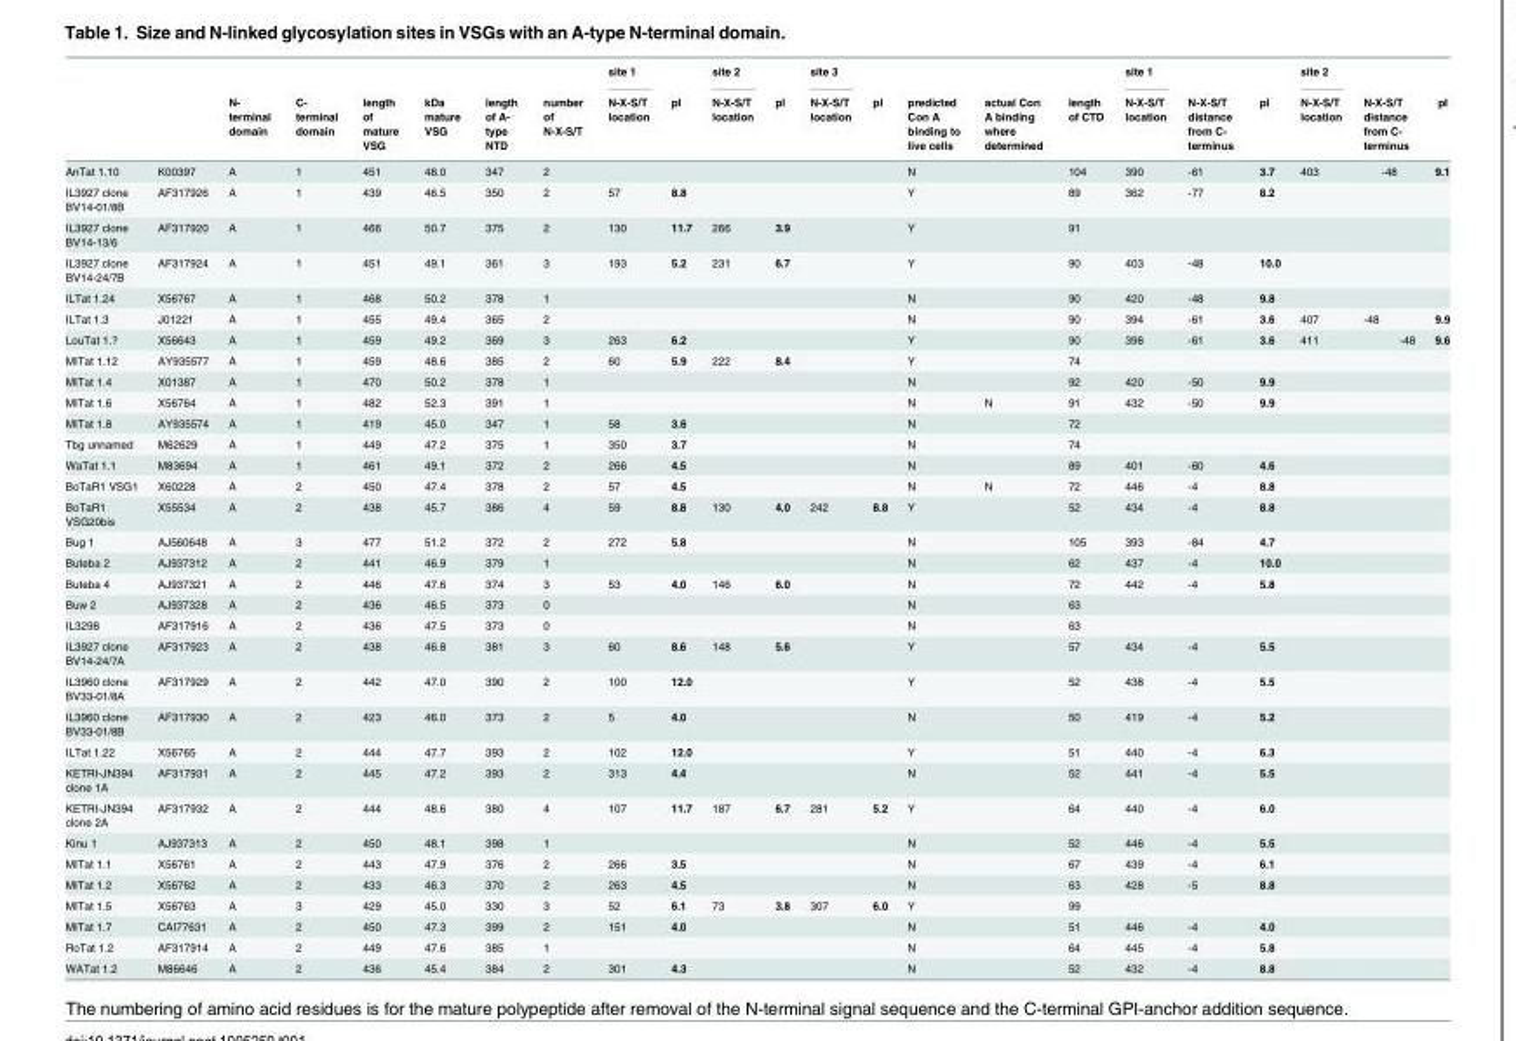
<table><thead><tr><td rowspan="2"></td><td rowspan="2"></td><td rowspan="2">N- terminal domain</td><td rowspan="2">C- terminal domain</td><td rowspan="2">length of mature VSG</td><td rowspan="2">kDa mature VSG</td><td rowspan="2">length of A- type NTD</td><td rowspan="2">number of N-X-S/T</td><td rowspan="2">site 1 N-X-S/T location</td><td rowspan="2">pI</td><td rowspan="2">site 2 N-X-S/T location</td><td rowspan="2">pI</td><td rowspan="2">site 3 N-X-S/T location</td><td rowspan="2">pI</td><td rowspan="2">predicted Con A binding to live cells</td><td rowspan="2">actual Con A binding where determined</td><td rowspan="2">length of CTD</td><td rowspan="2">site 1 N-X-S/T location</td><td rowspan="2">N-X-S/T distance from C- terminus</td><td rowspan="2">pI</td><td rowspan="2">site 2 N-X-S/T location</td><td rowspan="2">N-X-S/T distance from C- terminus</td><td rowspan="2">pI</td></tr><tr></tr></thead><tbody><tr><td>AnTat 1.10</td><td>K00397</td><td>A</td><td>1</td><td>451</td><td>48.0</td><td>347</td><td>2</td><td></td><td></td><td></td><td></td><td></td><td></td><td>N</td><td></td><td>104</td><td>390</td><td>-61</td><td>3.7</td><td>403</td><td>-48</td><td>9.1</td></tr><tr><td>IL3927 clone BV14-01/8B</td><td>AF317926</td><td>A</td><td>1</td><td>439</td><td>46.5</td><td>350</td><td>2</td><td>57</td><td>8.8</td><td></td><td></td><td></td><td></td><td>Y</td><td></td><td>89</td><td>362</td><td>-77</td><td>8.2</td><td></td><td></td><td></td></tr><tr><td>IL3927 clone BV14-13/6</td><td>AF317920</td><td>A</td><td>1</td><td>466</td><td>50.7</td><td>375</td><td>2</td><td>130</td><td>11.7</td><td>266</td><td>3.9</td><td></td><td></td><td>Y</td><td></td><td>91</td><td></td><td></td><td></td><td></td><td></td><td></td></tr><tr><td>IL3927 clone BV14-24/7B</td><td>AF317924</td><td>A</td><td>1</td><td>451</td><td>49.1</td><td>361</td><td>3</td><td>193</td><td>5.2</td><td>231</td><td>6.7</td><td></td><td></td><td>Y</td><td></td><td>90</td><td>403</td><td>-48</td><td>10.0</td><td></td><td></td><td></td></tr><tr><td>ILTat 1.24</td><td>X56767</td><td>A</td><td>1</td><td>468</td><td>50.2</td><td>378</td><td>1</td><td></td><td></td><td></td><td></td><td></td><td></td><td>N</td><td></td><td>90</td><td>420</td><td>-48</td><td>9.8</td><td></td><td></td><td></td></tr><tr><td>ILTat 1.3</td><td>J01221</td><td>A</td><td>1</td><td>455</td><td>49.4</td><td>365</td><td>2</td><td></td><td></td><td></td><td></td><td></td><td></td><td>N</td><td></td><td>90</td><td>394</td><td>-61</td><td>3.6</td><td>407</td><td>-48</td><td>9.9</td></tr><tr><td>LouTat 1.?</td><td>X56643</td><td>A</td><td>1</td><td>459</td><td>49.2</td><td>369</td><td>3</td><td>263</td><td>6.2</td><td></td><td></td><td></td><td></td><td>Y</td><td></td><td>90</td><td>398</td><td>-61</td><td>3.6</td><td>411</td><td>-48</td><td>9.6</td></tr><tr><td>MITat 1.12</td><td>AY935577</td><td>A</td><td>1</td><td>459</td><td>48.6</td><td>385</td><td>2</td><td>60</td><td>5.9</td><td>222</td><td>8.4</td><td></td><td></td><td>Y</td><td></td><td>74</td><td></td><td></td><td></td><td></td><td></td><td></td></tr><tr><td>MITat 1.4</td><td>X01387</td><td>A</td><td>1</td><td>470</td><td>50.2</td><td>378</td><td>1</td><td></td><td></td><td></td><td></td><td></td><td></td><td>N</td><td></td><td>92</td><td>420</td><td>-50</td><td>9.9</td><td></td><td></td><td></td></tr><tr><td>MITat 1.6</td><td>X56764</td><td>A</td><td>1</td><td>482</td><td>52.3</td><td>391</td><td>1</td><td></td><td></td><td></td><td></td><td></td><td></td><td>N</td><td>N</td><td>91</td><td>432</td><td>-50</td><td>9.9</td><td></td><td></td><td></td></tr><tr><td>MITat 1.8</td><td>AY935574</td><td>A</td><td>1</td><td>419</td><td>45.0</td><td>347</td><td>1</td><td>58</td><td>3.6</td><td></td><td></td><td></td><td></td><td>N</td><td></td><td>72</td><td></td><td></td><td></td><td></td><td></td><td></td></tr><tr><td>Tbg unnamed</td><td>M62629</td><td>A</td><td>1</td><td>449</td><td>47.2</td><td>375</td><td>1</td><td>350</td><td>3.7</td><td></td><td></td><td></td><td></td><td>N</td><td></td><td>74</td><td></td><td></td><td></td><td></td><td></td><td></td></tr><tr><td>WaTat 1.1</td><td>M83694</td><td>A</td><td>1</td><td>461</td><td>49.1</td><td>372</td><td>2</td><td>266</td><td>4.5</td><td></td><td></td><td></td><td></td><td>N</td><td></td><td>89</td><td>401</td><td>-60</td><td>4.6</td><td></td><td></td><td></td></tr><tr><td>BoTaR1 VSG1</td><td>X60228</td><td>A</td><td>2</td><td>450</td><td>47.4</td><td>378</td><td>2</td><td>57</td><td>4.5</td><td></td><td></td><td></td><td></td><td>N</td><td>N</td><td>72</td><td>446</td><td>-4</td><td>8.8</td><td></td><td></td><td></td></tr><tr><td>BoTaR1 VSG20bis</td><td>X55534</td><td>A</td><td>2</td><td>438</td><td>45.7</td><td>386</td><td>4</td><td>59</td><td>8.8</td><td>130</td><td>4.0</td><td>242</td><td>8.8</td><td>Y</td><td></td><td>52</td><td>434</td><td>-4</td><td>8.8</td><td></td><td></td><td></td></tr><tr><td>Bug 1</td><td>AJ560648</td><td>A</td><td>3</td><td>477</td><td>51.2</td><td>372</td><td>2</td><td>272</td><td>5.8</td><td></td><td></td><td></td><td></td><td>N</td><td></td><td>105</td><td>393</td><td>-84</td><td>4.7</td><td></td><td></td><td></td></tr><tr><td>Buteba 2</td><td>AJ937312</td><td>A</td><td>2</td><td>441</td><td>46.9</td><td>379</td><td>1</td><td></td><td></td><td></td><td></td><td></td><td></td><td>N</td><td></td><td>62</td><td>437</td><td>-4</td><td>10.0</td><td></td><td></td><td></td></tr><tr><td>Buteba 4</td><td>AJ937321</td><td>A</td><td>2</td><td>446</td><td>47.6</td><td>374</td><td>3</td><td>53</td><td>4.0</td><td>146</td><td>6.0</td><td></td><td></td><td>N</td><td></td><td>72</td><td>442</td><td>-4</td><td>5.8</td><td></td><td></td><td></td></tr><tr><td>Buw 2</td><td>AJ937328</td><td>A</td><td>2</td><td>436</td><td>46.5</td><td>373</td><td>0</td><td></td><td></td><td></td><td></td><td></td><td></td><td>N</td><td></td><td>63</td><td></td><td></td><td></td><td></td><td></td><td></td></tr><tr><td>IL3298</td><td>AF317916</td><td>A</td><td>2</td><td>436</td><td>47.5</td><td>373</td><td>0</td><td></td><td></td><td></td><td></td><td></td><td></td><td>N</td><td></td><td>63</td><td></td><td></td><td></td><td></td><td></td><td></td></tr><tr><td>IL3927 clone BV14-24/7A</td><td>AF317923</td><td>A</td><td>2</td><td>438</td><td>46.8</td><td>381</td><td>3</td><td>60</td><td>8.6</td><td>148</td><td>5.6</td><td></td><td></td><td>Y</td><td></td><td>57</td><td>434</td><td>-4</td><td>5.5</td><td></td><td></td><td></td></tr><tr><td>IL3960 clone BV33-01/8A</td><td>AF317929</td><td>A</td><td>2</td><td>442</td><td>47.0</td><td>390</td><td>2</td><td>100</td><td>12.0</td><td></td><td></td><td></td><td></td><td>Y</td><td></td><td>52</td><td>438</td><td>-4</td><td>5.5</td><td></td><td></td><td></td></tr><tr><td>IL3960 clone BV33-01/8B</td><td>AF317930</td><td>A</td><td>2</td><td>423</td><td>46.0</td><td>373</td><td>2</td><td>5</td><td>4.0</td><td></td><td></td><td></td><td></td><td>N</td><td></td><td>50</td><td>419</td><td>-4</td><td>5.2</td><td></td><td></td><td></td></tr><tr><td>ILTat 1.22</td><td>X56765</td><td>A</td><td>2</td><td>444</td><td>47.7</td><td>393</td><td>2</td><td>102</td><td>12.0</td><td></td><td></td><td></td><td></td><td>Y</td><td></td><td>51</td><td>440</td><td>-4</td><td>6.3</td><td></td><td></td><td></td></tr><tr><td>KETRI-JN394 clone 1A</td><td>AF317931</td><td>A</td><td>2</td><td>445</td><td>47.2</td><td>393</td><td>2</td><td>313</td><td>4.4</td><td></td><td></td><td></td><td></td><td>N</td><td></td><td>52</td><td>441</td><td>-4</td><td>5.5</td><td></td><td></td><td></td></tr><tr><td>KETRI-JN394 clone 2A</td><td>AF317932</td><td>A</td><td>2</td><td>444</td><td>48.6</td><td>380</td><td>4</td><td>107</td><td>11.7</td><td>187</td><td>6.7</td><td>281</td><td>5.2</td><td>Y</td><td></td><td>64</td><td>440</td><td>-4</td><td>6.0</td><td></td><td></td><td></td></tr><tr><td>Kinu 1</td><td>AJ937313</td><td>A</td><td>2</td><td>450</td><td>48.1</td><td>398</td><td>1</td><td></td><td></td><td></td><td></td><td></td><td></td><td>N</td><td></td><td>52</td><td>446</td><td>-4</td><td>5.5</td><td></td><td></td><td></td></tr><tr><td>MITat 1.1</td><td>X56761</td><td>A</td><td>2</td><td>443</td><td>47.9</td><td>376</td><td>2</td><td>266</td><td>3.5</td><td></td><td></td><td></td><td></td><td>N</td><td></td><td>67</td><td>439</td><td>-4</td><td>6.1</td><td></td><td></td><td></td></tr><tr><td>MITat 1.2</td><td>X56762</td><td>A</td><td>2</td><td>433</td><td>46.3</td><td>370</td><td>2</td><td>263</td><td>4.5</td><td></td><td></td><td></td><td></td><td>N</td><td></td><td>63</td><td>428</td><td>-5</td><td>8.8</td><td></td><td></td><td></td></tr><tr><td>MITat 1.5</td><td>X56763</td><td>A</td><td>3</td><td>429</td><td>45.0</td><td>330</td><td>3</td><td>52</td><td>6.1</td><td>73</td><td>3.8</td><td>307</td><td>6.0</td><td>Y</td><td></td><td>99</td><td></td><td></td><td></td><td></td><td></td><td></td></tr><tr><td>MITat 1.7</td><td>CAI77631</td><td>A</td><td>2</td><td>450</td><td>47.3</td><td>399</td><td>2</td><td>151</td><td>4.0</td><td></td><td></td><td></td><td></td><td>N</td><td></td><td>51</td><td>446</td><td>-4</td><td>4.0</td><td></td><td></td><td></td></tr><tr><td>RoTat 1.2</td><td>AF317914</td><td>A</td><td>2</td><td>449</td><td>47.6</td><td>385</td><td>1</td><td></td><td></td><td></td><td></td><td></td><td></td><td>N</td><td></td><td>64</td><td>445</td><td>-4</td><td>5.8</td><td></td><td></td><td></td></tr><tr><td>WATat 1.2</td><td>M86646</td><td>A</td><td>2</td><td>436</td><td>45.4</td><td>384</td><td>2</td><td>301</td><td>4.3</td><td></td><td></td><td></td><td></td><td>N</td><td></td><td>52</td><td>432</td><td>-4</td><td>8.8</td><td></td><td></td><td></td></tr></tbody></table>